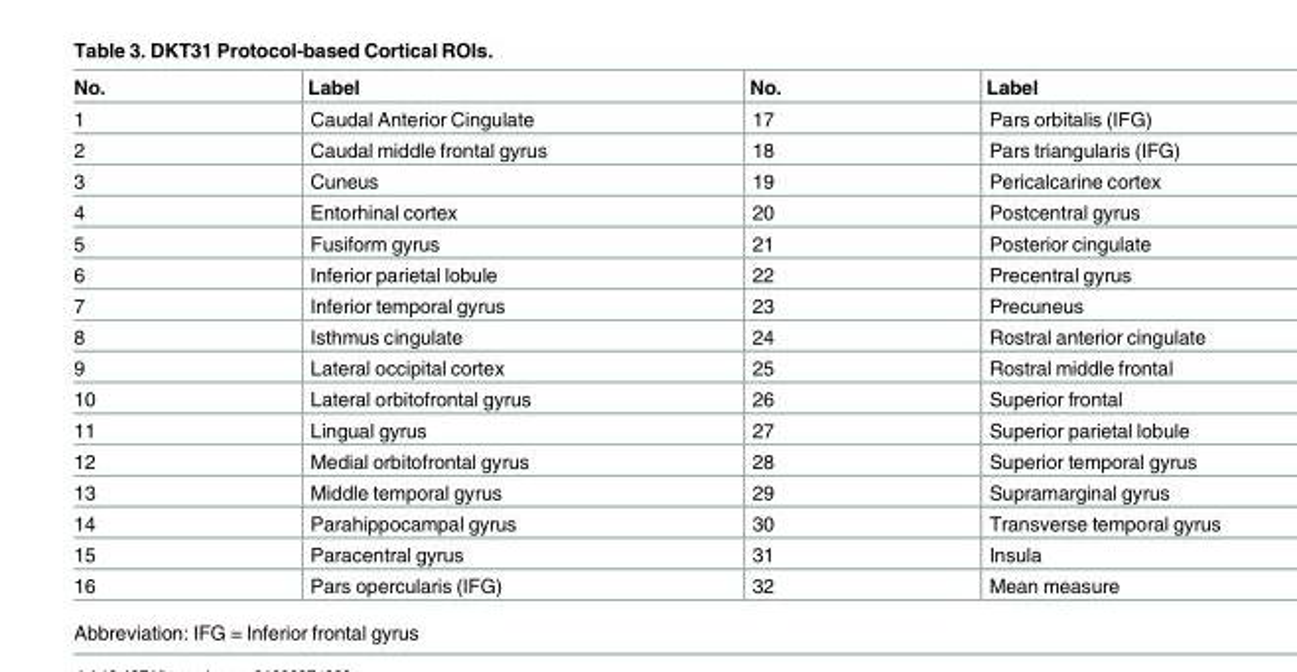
<table><thead><tr><td>No.</td><td>Label</td><td>No.</td><td>Label</td></tr></thead><tbody><tr><td>1</td><td>Caudal Anterior Cingulate</td><td>17</td><td>Pars orbitalis (IFG)</td></tr><tr><td>2</td><td>Caudal middle frontal gyrus</td><td>18</td><td>Pars triangularis (IFG)</td></tr><tr><td>3</td><td>Cuneus</td><td>19</td><td>Pericalcarine cortex</td></tr><tr><td>4</td><td>Entorhinal cortex</td><td>20</td><td>Postcentral gyrus</td></tr><tr><td>5</td><td>Fusiform gyrus</td><td>21</td><td>Posterior cingulate</td></tr><tr><td>6</td><td>Inferior parietal lobule</td><td>22</td><td>Precentral gyrus</td></tr><tr><td>7</td><td>Inferior temporal gyrus</td><td>23</td><td>Precuneus</td></tr><tr><td>8</td><td>Isthmus cingulate</td><td>24</td><td>Rostral anterior cingulate</td></tr><tr><td>9</td><td>Lateral occipital cortex</td><td>25</td><td>Rostral middle frontal</td></tr><tr><td>10</td><td>Lateral orbitofrontal gyrus</td><td>26</td><td>Superior frontal</td></tr><tr><td>11</td><td>Lingual gyrus</td><td>27</td><td>Superior parietal lobule</td></tr><tr><td>12</td><td>Medial orbitofrontal gyrus</td><td>28</td><td>Superior temporal gyrus</td></tr><tr><td>13</td><td>Middle temporal gyrus</td><td>29</td><td>Supramarginal gyrus</td></tr><tr><td>14</td><td>Parahippocampal gyrus</td><td>30</td><td>Transverse temporal gyrus</td></tr><tr><td>15</td><td>Paracentral gyrus</td><td>31</td><td>Insula</td></tr><tr><td>16</td><td>Pars opercularis (IFG)</td><td>32</td><td>Mean measure</td></tr></tbody></table>